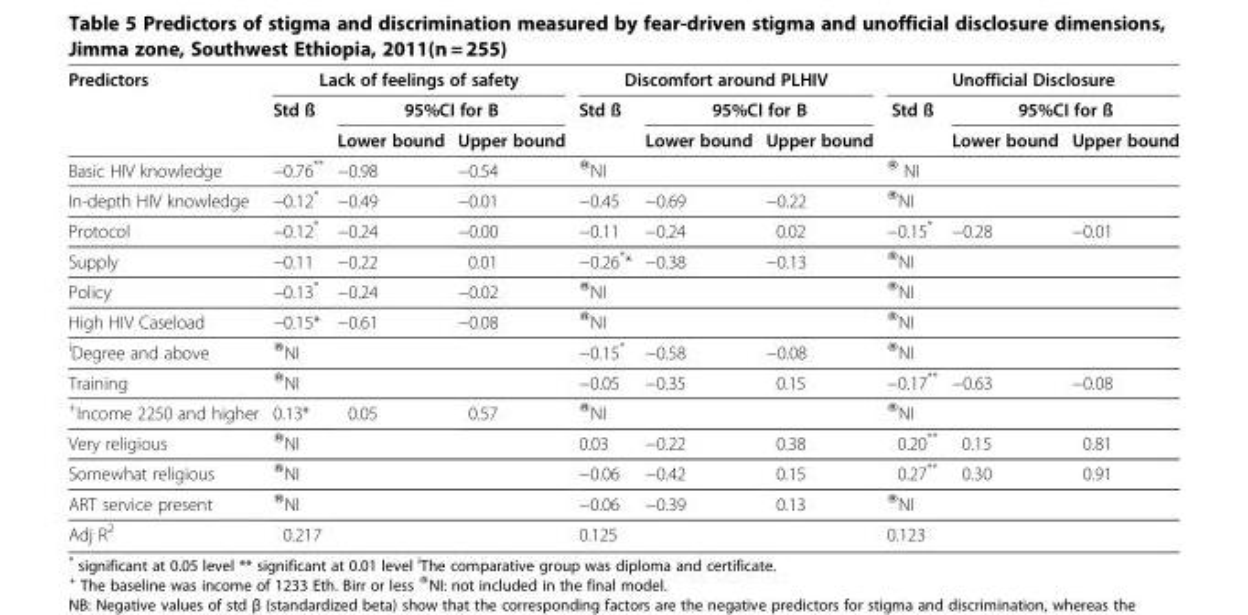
<table><thead><tr><td rowspan="3">Predictors</td><td colspan="3">Lack of feelings of safety</td><td colspan="3">Discomfort around PLHIV</td><td colspan="3">Unofficial Disclosure</td></tr><tr><td rowspan="2">Std ß</td><td colspan="2">95%CI for B</td><td rowspan="2">Std ß</td><td colspan="2">95%CI for B</td><td rowspan="2">Std ß</td><td colspan="2">95%CI for ß</td></tr><tr><td>Lower bound</td><td>Upper bound</td><td>Lower bound</td><td>Upper bound</td><td>Lower bound</td><td>Upper bound</td></tr></thead><tbody><tr><td>Basic HIV knowledge</td><td>−0.76**</td><td>−0.98</td><td>−0.54</td><td colspan="3">®NI</td><td colspan="3">® NI</td></tr><tr><td>In-depth HIV knowledge</td><td>−0.12*</td><td>−0.49</td><td>−0.01</td><td>−0.45</td><td>−0.69</td><td>−0.22</td><td colspan="3">®NI</td></tr><tr><td>Protocol</td><td>−0.12*</td><td>−0.24</td><td>−0.00</td><td>−0.11</td><td>−0.24</td><td>0.02</td><td>−0.15*</td><td>−0.28</td><td>−0.01</td></tr><tr><td>Supply</td><td>−0.11</td><td>−0.22</td><td>0.01</td><td>−0.26**</td><td>−0.38</td><td>−0.13</td><td colspan="3">®NI</td></tr><tr><td>Policy</td><td>−0.13*</td><td>−0.24</td><td>−0.02</td><td colspan="3">®NI</td><td colspan="3">®NI</td></tr><tr><td>High HIV Caseload</td><td>−0.15*</td><td>−0.61</td><td>−0.08</td><td colspan="3">®NI</td><td colspan="3">®NI</td></tr><tr><td><sup>i</sup>Degree and above</td><td colspan="3">®NI</td><td>−0.15*</td><td>−0.58</td><td>−0.08</td><td colspan="3">®NI</td></tr><tr><td>Training</td><td colspan="3">®NI</td><td>−0.05</td><td>−0.35</td><td>0.15</td><td>−0.17**</td><td>−0.63</td><td>−0.08</td></tr><tr><td><sup>+</sup>Income 2250 and higher</td><td>0.13*</td><td>0.05</td><td>0.57</td><td colspan="3">®NI</td><td colspan="3">®NI</td></tr><tr><td>Very religious</td><td colspan="3">®NI</td><td>0.03</td><td>−0.22</td><td>0.38</td><td>0.20**</td><td>0.15</td><td>0.81</td></tr><tr><td>Somewhat religious</td><td colspan="3">®NI</td><td>−0.06</td><td>−0.42</td><td>0.15</td><td>0.27**</td><td>0.30</td><td>0.91</td></tr><tr><td>ART service present</td><td colspan="3">®NI</td><td>−0.06</td><td>−0.39</td><td>0.13</td><td colspan="3">®NI</td></tr><tr><td>Adj R<sup>2</sup></td><td colspan="3">0.217</td><td colspan="3">0.125</td><td colspan="3">0.123</td></tr></tbody></table>